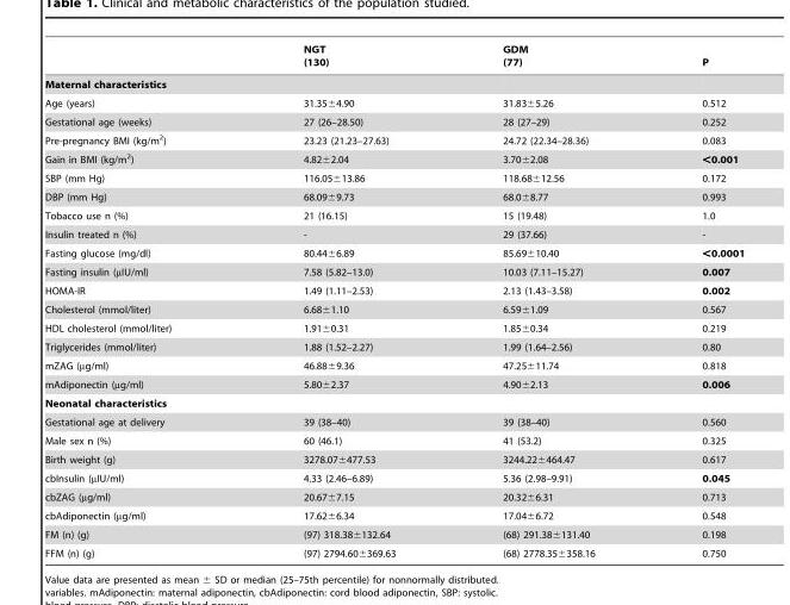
<table><thead><tr><td></td><td>NGT (130)</td><td>GDM (77)</td><td>P</td></tr></thead><tbody><tr><td colspan="4">Maternal characteristics</td></tr><tr><td>Age (years)</td><td>31.35±4.90</td><td>31.83±5.26</td><td>0.512</td></tr><tr><td>Gestational age (weeks)</td><td>27 (26–28.50)</td><td>28 (27–29)</td><td>0.252</td></tr><tr><td>Pre-pregnancy BMI (kg/m<sup>2</sup>)</td><td>23.23 (21.23–27.63)</td><td>24.72 (22.34–28.36)</td><td>0.083</td></tr><tr><td>Gain in BMI (kg/m<sup>2</sup>)</td><td>4.82±2.04</td><td>3.70±2.08</td><td>&lt;0.001</td></tr><tr><td>SBP (mm Hg)</td><td>116.05±13.86</td><td>118.68±12.56</td><td>0.172</td></tr><tr><td>DBP (mm Hg)</td><td>68.09±9.73</td><td>68.0±8.77</td><td>0.993</td></tr><tr><td>Tobacco use n (%)</td><td>21 (16.15)</td><td>15 (19.48)</td><td>1.0</td></tr><tr><td>Insulin treated n (%)</td><td>-</td><td>29 (37.66)</td><td>-</td></tr><tr><td>Fasting glucose (mg/dl)</td><td>80.44±6.89</td><td>85.69±10.40</td><td>&lt;0.0001</td></tr><tr><td>Fasting insulin (µIU/ml)</td><td>7.58 (5.82–13.0)</td><td>10.03 (7.11–15.27)</td><td>0.007</td></tr><tr><td>HOMA-IR</td><td>1.49 (1.11–2.53)</td><td>2.13 (1.43–3.58)</td><td>0.002</td></tr><tr><td>Cholesterol (mmol/liter)</td><td>6.68±1.10</td><td>6.59±1.09</td><td>0.567</td></tr><tr><td>HDL cholesterol (mmol/liter)</td><td>1.91±0.31</td><td>1.85±0.34</td><td>0.219</td></tr><tr><td>Triglycerides (mmol/liter)</td><td>1.88 (1.52–2.27)</td><td>1.99 (1.64–2.56)</td><td>0.80</td></tr><tr><td>mZAG (µg/ml)</td><td>46.88±9.36</td><td>47.25±11.74</td><td>0.818</td></tr><tr><td>mAdiponectin (µg/ml)</td><td>5.80±2.37</td><td>4.90±2.13</td><td>0.006</td></tr><tr><td colspan="4">Neonatal characteristics</td></tr><tr><td>Gestational age at delivery</td><td>39 (38–40)</td><td>39 (38–40)</td><td>0.560</td></tr><tr><td>Male sex n (%)</td><td>60 (46.1)</td><td>41 (53.2)</td><td>0.325</td></tr><tr><td>Birth weight (g)</td><td>3278.07±477.53</td><td>3244.22±464.47</td><td>0.617</td></tr><tr><td>cbInsulin (µIU/ml)</td><td>4.33 (2.46–6.89)</td><td>5.36 (2.98–9.91)</td><td>0.045</td></tr><tr><td>cbZAG (µg/ml)</td><td>20.67±7.15</td><td>20.32±6.31</td><td>0.713</td></tr><tr><td>cbAdiponectin (µg/ml)</td><td>17.62±6.34</td><td>17.04±6.72</td><td>0.548</td></tr><tr><td>FM (n) (g)</td><td>(97) 318.38±132.64</td><td>(68) 291.38±131.40</td><td>0.198</td></tr><tr><td>FFM (n) (g)</td><td>(97) 2794.60±369.63</td><td>(68) 2778.35±358.16</td><td>0.750</td></tr></tbody></table>